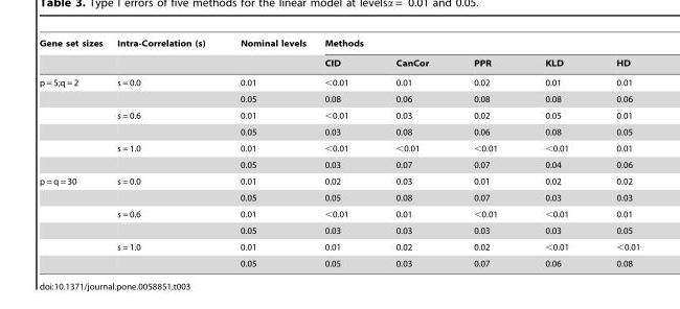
<table><thead><tr><td rowspan="2">Gene set sizes</td><td rowspan="2">Intra-Correlation (s)</td><td rowspan="2">Nominal levels</td><td colspan="5">Methods</td></tr><tr><td>CID</td><td>CanCor</td><td>PPR</td><td>KLD</td><td>HD</td></tr></thead><tbody><tr><td rowspan="6">p = 5;q = 2</td><td>s = 0.0</td><td>0.01</td><td>&lt;0.01</td><td>0.01</td><td>0.02</td><td>0.01</td><td>0.01</td></tr><tr><td></td><td>0.05</td><td>0.08</td><td>0.06</td><td>0.08</td><td>0.08</td><td>0.06</td></tr><tr><td>s = 0.6</td><td>0.01</td><td>&lt;0.01</td><td>0.03</td><td>0.02</td><td>0.05</td><td>0.01</td></tr><tr><td></td><td>0.05</td><td>0.03</td><td>0.08</td><td>0.06</td><td>0.08</td><td>0.05</td></tr><tr><td>s = 1.0</td><td>0.01</td><td>&lt;0.01</td><td>&lt;0.01</td><td>&lt;0.01</td><td>&lt;0.01</td><td>0.01</td></tr><tr><td></td><td>0.05</td><td>0.03</td><td>0.07</td><td>0.07</td><td>0.04</td><td>0.06</td></tr><tr><td rowspan="6">p = q = 30</td><td>s = 0.0</td><td>0.01</td><td>0.02</td><td>0.03</td><td>0.01</td><td>0.02</td><td>0.02</td></tr><tr><td></td><td>0.05</td><td>0.05</td><td>0.08</td><td>0.07</td><td>0.03</td><td>0.03</td></tr><tr><td>s = 0.6</td><td>0.01</td><td>&lt;0.01</td><td>0.01</td><td>&lt;0.01</td><td>&lt;0.01</td><td>0.01</td></tr><tr><td></td><td>0.05</td><td>0.03</td><td>0.03</td><td>0.03</td><td>0.03</td><td>0.05</td></tr><tr><td>s = 1.0</td><td>0.01</td><td>0.01</td><td>0.02</td><td>0.02</td><td>&lt;0.01</td><td>&lt;0.01</td></tr><tr><td></td><td>0.05</td><td>0.05</td><td>0.03</td><td>0.07</td><td>0.06</td><td>0.08</td></tr></tbody></table>